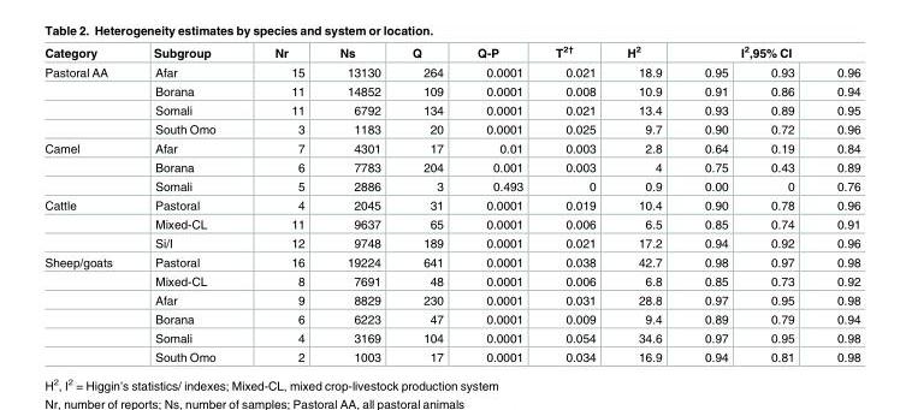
<table><thead><tr><td rowspan="2">Category Pastoral AA</td><td rowspan="2">Subgroup Afar</td><td rowspan="2">Nr 15</td><td rowspan="2">Ns 13130</td><td rowspan="2">Q 264</td><td rowspan="2">Q-P 0.0001</td><td rowspan="2">T<sup>2†</sup> 0.021</td><td rowspan="2">H<sup>2</sup> 18.9</td><td colspan="3">I<sup>2</sup>,95% CI</td></tr><tr><td>0.95</td><td>0.93</td><td>0.96</td></tr></thead><tbody><tr><td></td><td>Borana</td><td>11</td><td>14852</td><td>109</td><td>0.0001</td><td>0.008</td><td>10.9</td><td>0.91</td><td>0.86</td><td>0.94</td></tr><tr><td></td><td>Somali</td><td>11</td><td>6792</td><td>134</td><td>0.0001</td><td>0.021</td><td>13.4</td><td>0.93</td><td>0.89</td><td>0.95</td></tr><tr><td></td><td>South Omo</td><td>3</td><td>1183</td><td>20</td><td>0.0001</td><td>0.025</td><td>9.7</td><td>0.90</td><td>0.72</td><td>0.96</td></tr><tr><td rowspan="3">Camel</td><td>Afar</td><td>7</td><td>4301</td><td>17</td><td>0.01</td><td>0.003</td><td>2.8</td><td>0.64</td><td>0.19</td><td>0.84</td></tr><tr><td>Borana</td><td>6</td><td>7783</td><td>204</td><td>0.001</td><td>0.003</td><td>4</td><td>0.75</td><td>0.43</td><td>0.89</td></tr><tr><td>Somali</td><td>5</td><td>2886</td><td>3</td><td>0.493</td><td>0</td><td>0.9</td><td>0.00</td><td>0</td><td>0.76</td></tr><tr><td rowspan="3">Cattle</td><td>Pastoral</td><td>4</td><td>2045</td><td>31</td><td>0.0001</td><td>0.019</td><td>10.4</td><td>0.90</td><td>0.78</td><td>0.96</td></tr><tr><td>Mixed-CL</td><td>11</td><td>9637</td><td>65</td><td>0.0001</td><td>0.006</td><td>6.5</td><td>0.85</td><td>0.74</td><td>0.91</td></tr><tr><td>Si/I</td><td>12</td><td>9748</td><td>189</td><td>0.0001</td><td>0.021</td><td>17.2</td><td>0.94</td><td>0.92</td><td>0.96</td></tr><tr><td rowspan="6">Sheep/goats</td><td>Pastoral</td><td>16</td><td>19224</td><td>641</td><td>0.0001</td><td>0.038</td><td>42.7</td><td>0.98</td><td>0.97</td><td>0.98</td></tr><tr><td>Mixed-CL</td><td>8</td><td>7691</td><td>48</td><td>0.0001</td><td>0.006</td><td>6.8</td><td>0.85</td><td>0.73</td><td>0.92</td></tr><tr><td>Afar</td><td>9</td><td>8829</td><td>230</td><td>0.0001</td><td>0.031</td><td>28.8</td><td>0.97</td><td>0.95</td><td>0.98</td></tr><tr><td>Borana</td><td>6</td><td>6223</td><td>47</td><td>0.0001</td><td>0.009</td><td>9.4</td><td>0.89</td><td>0.79</td><td>0.94</td></tr><tr><td>Somali</td><td>4</td><td>3169</td><td>104</td><td>0.0001</td><td>0.054</td><td>34.6</td><td>0.97</td><td>0.95</td><td>0.98</td></tr><tr><td>South Omo</td><td>2</td><td>1003</td><td>17</td><td>0.0001</td><td>0.034</td><td>16.9</td><td>0.94</td><td>0.81</td><td>0.98</td></tr></tbody></table>